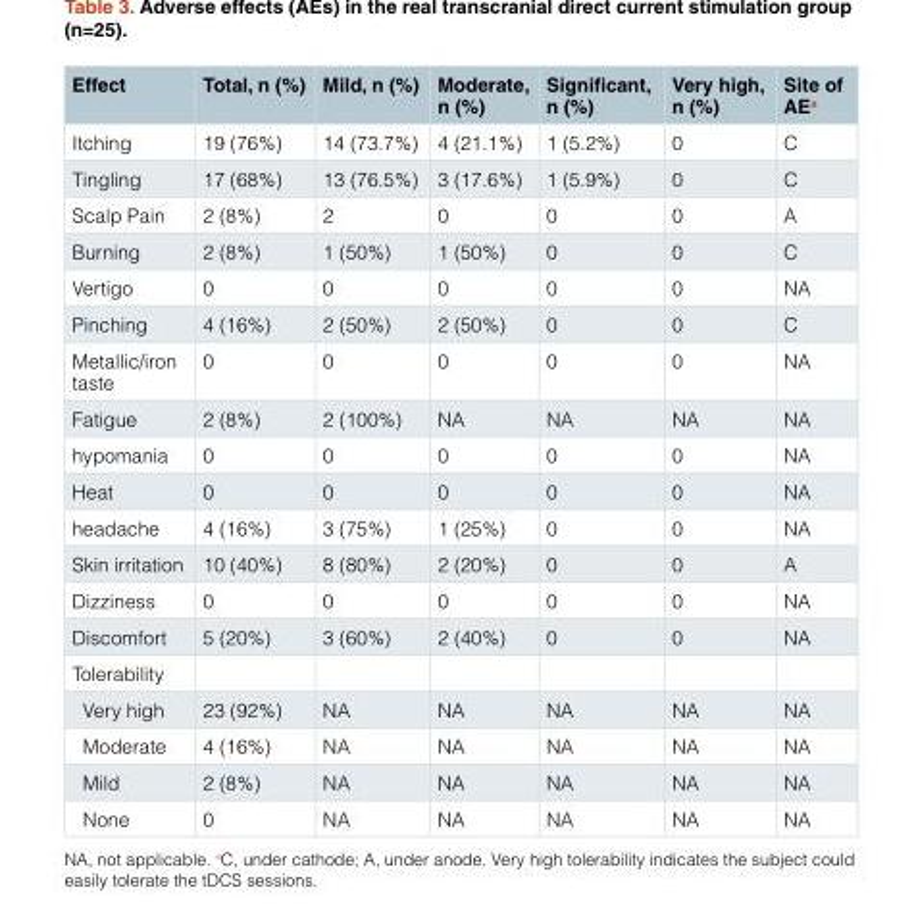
<table><thead><tr><td>Effect</td><td>Total, n (%)</td><td>Mild, n (%)</td><td>Moderate, n (%)</td><td>Significant, n (%)</td><td>Very high, n (%)</td><td>Site of AE<sup>a</sup></td></tr></thead><tbody><tr><td>Itching</td><td>19 (76%)</td><td>14 (73.7%)</td><td>4 (21.1%)</td><td>1 (5.2%)</td><td>0</td><td>C</td></tr><tr><td>Tingling</td><td>17 (68%)</td><td>13 (76.5%)</td><td>3 (17.6%)</td><td>1 (5.9%)</td><td>0</td><td>C</td></tr><tr><td>Scalp Pain</td><td>2 (8%)</td><td>2</td><td>0</td><td>0</td><td>0</td><td>A</td></tr><tr><td>Burning</td><td>2 (8%)</td><td>1 (50%)</td><td>1 (50%)</td><td>0</td><td>0</td><td>C</td></tr><tr><td>Vertigo</td><td>0</td><td>0</td><td>0</td><td>0</td><td>0</td><td>NA</td></tr><tr><td>Pinching</td><td>4 (16%)</td><td>2 (50%)</td><td>2 (50%)</td><td>0</td><td>0</td><td>C</td></tr><tr><td>Metallic/iron taste</td><td>0</td><td>0</td><td>0</td><td>0</td><td>0</td><td>NA</td></tr><tr><td>Fatigue</td><td>2 (8%)</td><td>2 (100%)</td><td>NA</td><td>NA</td><td>NA</td><td>NA</td></tr><tr><td>hypomania</td><td>0</td><td>0</td><td>0</td><td>0</td><td>0</td><td>NA</td></tr><tr><td>Heat</td><td>0</td><td>0</td><td>0</td><td>0</td><td>0</td><td>NA</td></tr><tr><td>headache</td><td>4 (16%)</td><td>3 (75%)</td><td>1 (25%)</td><td>0</td><td>0</td><td>NA</td></tr><tr><td>Skin irritation</td><td>10 (40%)</td><td>8 (80%)</td><td>2 (20%)</td><td>0</td><td>0</td><td>A</td></tr><tr><td>Dizziness</td><td>0</td><td>0</td><td>0</td><td>0</td><td>0</td><td>NA</td></tr><tr><td>Discomfort</td><td>5 (20%)</td><td>3 (60%)</td><td>2 (40%)</td><td>0</td><td>0</td><td>NA</td></tr><tr><td colspan="7">Tolerability</td></tr><tr><td>Very high</td><td>23 (92%)</td><td>NA</td><td>NA</td><td>NA</td><td>NA</td><td>NA</td></tr><tr><td>Moderate</td><td>4 (16%)</td><td>NA</td><td>NA</td><td>NA</td><td>NA</td><td>NA</td></tr><tr><td>Mild</td><td>2 (8%)</td><td>NA</td><td>NA</td><td>NA</td><td>NA</td><td>NA</td></tr><tr><td>None</td><td>0</td><td>NA</td><td>NA</td><td>NA</td><td>NA</td><td>NA</td></tr></tbody></table>